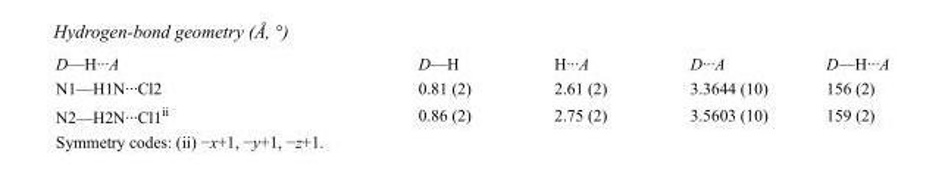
<table><tbody><tr><td>D—H···A</td><td>D—H</td><td>H···A</td><td>D···A</td><td>D—H···A</td></tr><tr><td>N1—H1N···Cl2</td><td>0.81 (2)</td><td>2.61 (2)</td><td>3.3644 (10)</td><td>156 (2)</td></tr><tr><td>N2—H2N···Cl1<sup>ii</sup></td><td>0.86 (2)</td><td>2.75 (2)</td><td>3.5603 (10)</td><td>159 (2)</td></tr></tbody></table>